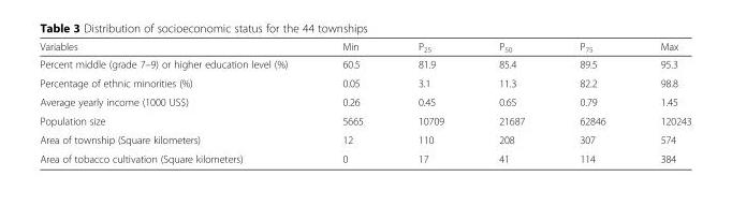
<table><thead><tr><td>Variables</td><td>Min</td><td>P<sub>25</sub></td><td>P<sub>50</sub></td><td>P<sub>75</sub></td><td>Max</td></tr></thead><tbody><tr><td>Percent middle (grade 7–9) or higher education level (%)</td><td>60.5</td><td>81.9</td><td>85.4</td><td>89.5</td><td>95.3</td></tr><tr><td>Percentage of ethnic minorities (%)</td><td>0.05</td><td>3.1</td><td>11.3</td><td>82.2</td><td>98.8</td></tr><tr><td>Average yearly income (1000 US$)</td><td>0.26</td><td>0.45</td><td>0.65</td><td>0.79</td><td>1.45</td></tr><tr><td>Population size</td><td>5665</td><td>10709</td><td>21687</td><td>62846</td><td>120243</td></tr><tr><td>Area of township (Square kilometers)</td><td>12</td><td>110</td><td>208</td><td>307</td><td>574</td></tr><tr><td>Area of tobacco cultivation (Square kilometers)</td><td>0</td><td>17</td><td>41</td><td>114</td><td>384</td></tr></tbody></table>